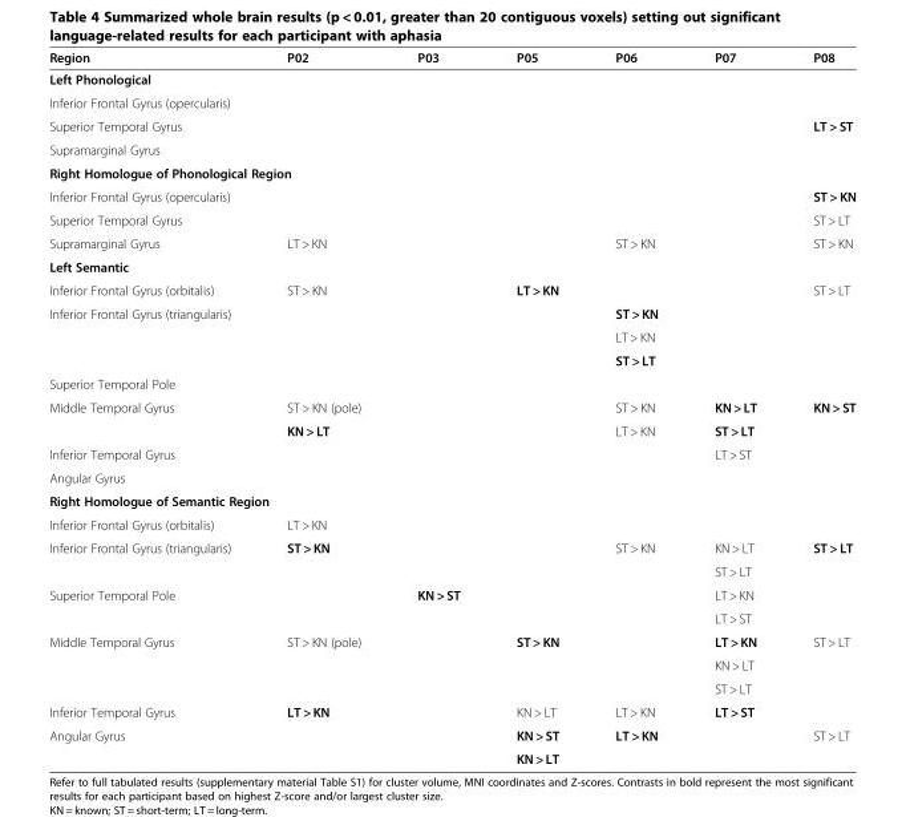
<table><thead><tr><td>Region</td><td>P02</td><td>P03</td><td>P05</td><td>P06</td><td>P07</td><td>P08</td></tr></thead><tbody><tr><td colspan="7">Left Phonological</td></tr><tr><td colspan="7">Inferior Frontal Gyrus (opercularis)</td></tr><tr><td>Superior Temporal Gyrus</td><td></td><td></td><td></td><td></td><td></td><td>LT &gt; ST</td></tr><tr><td colspan="7">Supramarginal Gyrus</td></tr><tr><td colspan="7">Right Homologue of Phonological Region</td></tr><tr><td>Inferior Frontal Gyrus (opercularis)</td><td></td><td></td><td></td><td></td><td></td><td>ST &gt; KN</td></tr><tr><td>Superior Temporal Gyrus</td><td colspan="5"></td><td>ST &gt; LT</td></tr><tr><td>Supramarginal Gyrus</td><td>LT &gt; KN</td><td></td><td></td><td>ST &gt; KN</td><td></td><td>ST &gt; KN</td></tr><tr><td colspan="7">Left Semantic</td></tr><tr><td>Inferior Frontal Gyrus (orbitalis)</td><td>ST &gt; KN</td><td></td><td>LT &gt; KN</td><td></td><td></td><td>ST &gt; LT</td></tr><tr><td rowspan="3">Inferior Frontal Gyrus (triangularis)</td><td></td><td></td><td></td><td>ST &gt; KN</td><td></td><td></td></tr><tr><td></td><td></td><td></td><td>LT &gt; KN</td><td></td><td></td></tr><tr><td></td><td></td><td></td><td>ST &gt; LT</td><td></td><td></td></tr><tr><td colspan="7">Superior Temporal Pole</td></tr><tr><td rowspan="2">Middle Temporal Gyrus</td><td>ST &gt; KN (pole)</td><td></td><td></td><td>ST &gt; KN</td><td>KN &gt; LT</td><td>KN &gt; ST</td></tr><tr><td>KN &gt; LT</td><td></td><td></td><td>LT &gt; KN</td><td>ST &gt; LT</td><td></td></tr><tr><td>Inferior Temporal Gyrus</td><td></td><td></td><td></td><td></td><td>LT &gt; ST</td><td></td></tr><tr><td colspan="7">Angular Gyrus</td></tr><tr><td colspan="7">Right Homologue of Semantic Region</td></tr><tr><td>Inferior Frontal Gyrus (orbitalis)</td><td>LT &gt; KN</td><td></td><td></td><td></td><td></td><td></td></tr><tr><td rowspan="2">Inferior Frontal Gyrus (triangularis)</td><td>ST &gt; KN</td><td></td><td></td><td>ST &gt; KN</td><td>KN &gt; LT</td><td>ST &gt; LT</td></tr><tr><td></td><td></td><td></td><td></td><td>ST &gt; LT</td><td></td></tr><tr><td rowspan="2">Superior Temporal Pole</td><td></td><td>KN &gt; ST</td><td></td><td></td><td>LT &gt; KN</td><td></td></tr><tr><td></td><td></td><td></td><td></td><td>LT &gt; ST</td><td></td></tr><tr><td rowspan="3">Middle Temporal Gyrus</td><td rowspan="3">ST &gt; KN (pole)</td><td></td><td>ST &gt; KN</td><td></td><td>LT &gt; KN</td><td>ST &gt; LT</td></tr><tr><td></td><td></td><td></td><td>KN &gt; LT</td><td></td></tr><tr><td></td><td></td><td></td><td>ST &gt; LT</td><td></td></tr><tr><td>Inferior Temporal Gyrus</td><td>LT &gt; KN</td><td></td><td>KN &gt; LT</td><td>LT &gt; KN</td><td>LT &gt; ST</td><td></td></tr><tr><td rowspan="2">Angular Gyrus</td><td></td><td></td><td>KN &gt; ST</td><td>LT &gt; KN</td><td></td><td>ST &gt; LT</td></tr><tr><td></td><td></td><td>KN &gt; LT</td><td></td><td></td><td></td></tr></tbody></table>